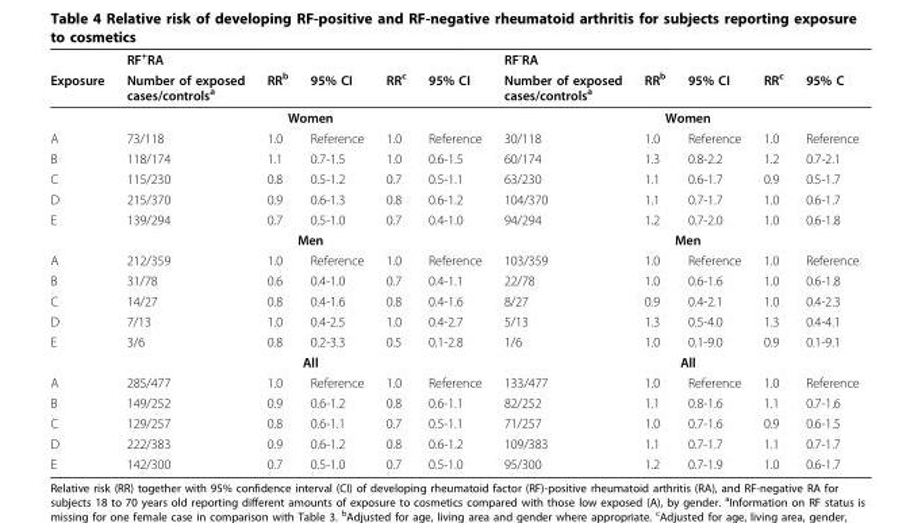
<table><thead><tr><td rowspan="2">Exposure</td><td colspan="5">RF<sup>+</sup>RA</td><td colspan="5">RF<sup>-</sup>RA</td></tr><tr><td>Number of exposed cases/controls<sup>a</sup></td><td>RR<sup>b</sup></td><td>95% CI</td><td>RR<sup>c</sup></td><td>95% CI</td><td>Number of exposed cases/controls<sup>a</sup></td><td>RR<sup>b</sup></td><td>95% CI</td><td>RR<sup>c</sup></td><td>95% C</td></tr></thead><tbody><tr><td></td><td colspan="5">Women</td><td colspan="5">Women</td></tr><tr><td>A</td><td>73/118</td><td>1.0</td><td>Reference</td><td>1.0</td><td>Reference</td><td>30/118</td><td>1.0</td><td>Reference</td><td>1.0</td><td>Reference</td></tr><tr><td>B</td><td>118/174</td><td>1.1</td><td>0.7-1.5</td><td>1.0</td><td>0.6-1.5</td><td>60/174</td><td>1.3</td><td>0.8-2.2</td><td>1.2</td><td>0.7-2.1</td></tr><tr><td>C</td><td>115/230</td><td>0.8</td><td>0.5-1.2</td><td>0.7</td><td>0.5-1.1</td><td>63/230</td><td>1.1</td><td>0.6-1.7</td><td>0.9</td><td>0.5-1.7</td></tr><tr><td>D</td><td>215/370</td><td>0.9</td><td>0.6-1.3</td><td>0.8</td><td>0.6-1.2</td><td>104/370</td><td>1.1</td><td>0.7-1.7</td><td>1.0</td><td>0.6-1.7</td></tr><tr><td rowspan="2">E</td><td>139/294</td><td>0.7</td><td>0.5-1.0</td><td>0.7</td><td>0.4-1.0</td><td>94/294</td><td>1.2</td><td>0.7-2.0</td><td>1.0</td><td>0.6-1.8</td></tr><tr><td colspan="5">Men</td><td colspan="5">Men</td></tr><tr><td>A</td><td>212/359</td><td>1.0</td><td>Reference</td><td>1.0</td><td>Reference</td><td>103/359</td><td>1.0</td><td>Reference</td><td>1.0</td><td>Reference</td></tr><tr><td>B</td><td>31/78</td><td>0.6</td><td>0.4-1.0</td><td>0.7</td><td>0.4-1.1</td><td>22/78</td><td>1.0</td><td>0.6-1.6</td><td>1.0</td><td>0.6-1.8</td></tr><tr><td>C</td><td>14/27</td><td>0.8</td><td>0.4-1.6</td><td>0.8</td><td>0.4-1.6</td><td>8/27</td><td>0.9</td><td>0.4-2.1</td><td>1.0</td><td>0.4-2.3</td></tr><tr><td>D</td><td>7/13</td><td>1.0</td><td>0.4-2.5</td><td>1.0</td><td>0.4-2.7</td><td>5/13</td><td>1.3</td><td>0.5-4.0</td><td>1.3</td><td>0.4-4.1</td></tr><tr><td rowspan="2">E</td><td>3/6</td><td>0.8</td><td>0.2-3.3</td><td>0.5</td><td>0.1-2.8</td><td>1/6</td><td>1.0</td><td>0.1-9.0</td><td>0.9</td><td>0.1-9.1</td></tr><tr><td colspan="5">All</td><td colspan="5">All</td></tr><tr><td>A</td><td>285/477</td><td>1.0</td><td>Reference</td><td>1.0</td><td>Reference</td><td>133/477</td><td>1.0</td><td>Reference</td><td>1.0</td><td>Reference</td></tr><tr><td>B</td><td>149/252</td><td>0.9</td><td>0.6-1.2</td><td>0.8</td><td>0.6-1.1</td><td>82/252</td><td>1.1</td><td>0.8-1.6</td><td>1.1</td><td>0.7-1.6</td></tr><tr><td>C</td><td>129/257</td><td>0.8</td><td>0.6-1.1</td><td>0.7</td><td>0.5-1.1</td><td>71/257</td><td>1.0</td><td>0.7-1.6</td><td>0.9</td><td>0.6-1.5</td></tr><tr><td>D</td><td>222/383</td><td>0.9</td><td>0.6-1.2</td><td>0.8</td><td>0.6-1.2</td><td>109/383</td><td>1.1</td><td>0.7-1.7</td><td>1.1</td><td>0.7-1.7</td></tr><tr><td>E</td><td>142/300</td><td>0.7</td><td>0.5-1.0</td><td>0.7</td><td>0.5-1.0</td><td>95/300</td><td>1.2</td><td>0.7-1.9</td><td>1.0</td><td>0.6-1.7</td></tr></tbody></table>